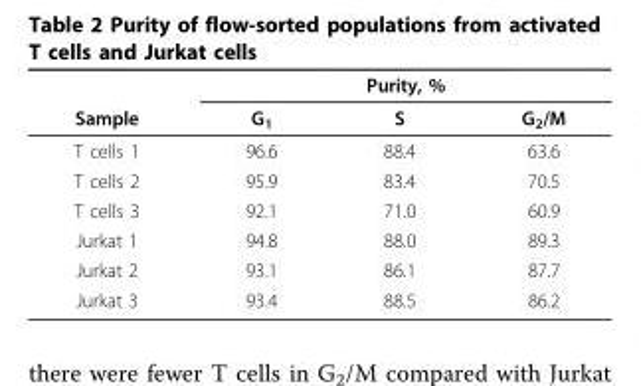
<table><thead><tr><td rowspan="2">Sample</td><td colspan="3">Purity, %</td></tr><tr><td>G<sub>1</sub></td><td>S</td><td>G<sub>2</sub>/M</td></tr></thead><tbody><tr><td>T cells 1</td><td>96.6</td><td>88.4</td><td>63.6</td></tr><tr><td>T cells 2</td><td>95.9</td><td>83.4</td><td>70.5</td></tr><tr><td>T cells 3</td><td>92.1</td><td>71.0</td><td>60.9</td></tr><tr><td>Jurkat 1</td><td>94.8</td><td>88.0</td><td>89.3</td></tr><tr><td>Jurkat 2</td><td>93.1</td><td>86.1</td><td>87.7</td></tr><tr><td>Jurkat 3</td><td>93.4</td><td>88.5</td><td>86.2</td></tr></tbody></table>